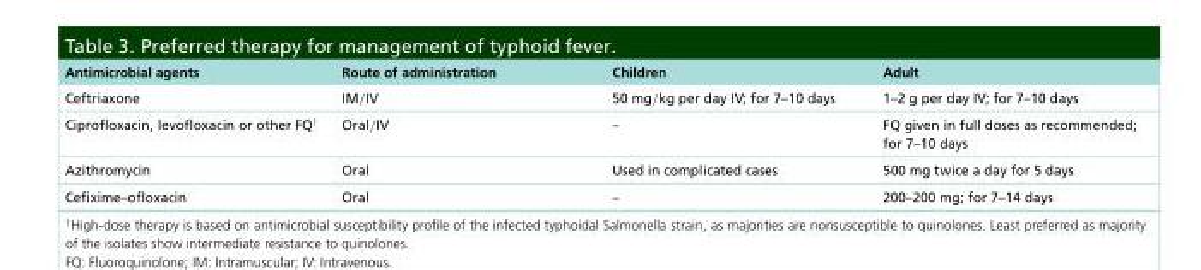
<table><thead><tr><td>Antimicrobial agents</td><td>Route of administration</td><td>Children</td><td>Adult</td></tr></thead><tbody><tr><td>Ceftriaxone</td><td>IM/IV</td><td>50 mg/kg per day IV; for 7–10 days</td><td>1–2 g per day IV; for 7–10 days</td></tr><tr><td>Ciprofloxacin, levofloxacin or other FQ<sup>†</sup></td><td>Oral/IV</td><td>–</td><td>FQ given in full doses as recommended; for 7–10 days</td></tr><tr><td>Azithromycin</td><td>Oral</td><td>Used in complicated cases</td><td>500 mg twice a day for 5 days</td></tr><tr><td>Cefixime–ofloxacin</td><td>Oral</td><td>–</td><td>200–200 mg; for 7–14 days</td></tr></tbody></table>